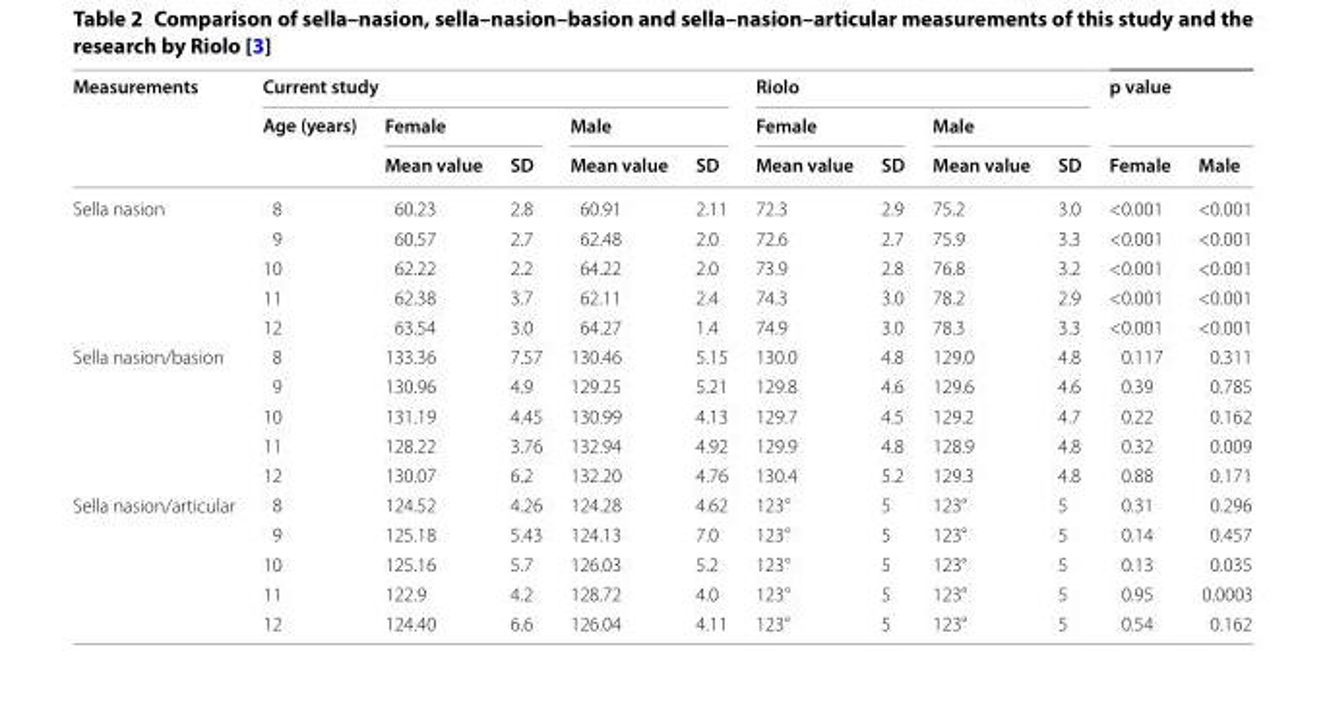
<table><thead><tr><td rowspan="3">Measurements</td><td colspan="5">Current study</td><td colspan="4">Riolo</td><td rowspan="2" colspan="2">p value</td></tr><tr><td rowspan="2">Age (years)</td><td colspan="2">Female</td><td colspan="2">Male</td><td colspan="2">Female</td><td colspan="2">Male</td></tr><tr><td>Mean value</td><td>SD</td><td>Mean value</td><td>SD</td><td>Mean value</td><td>SD</td><td>Mean value</td><td>SD</td><td>Female</td><td>Male</td></tr></thead><tbody><tr><td rowspan="5">Sella nasion</td><td>8</td><td>60.23</td><td>2.8</td><td>60.91</td><td>2.11</td><td>72.3</td><td>2.9</td><td>75.2</td><td>3.0</td><td>&lt;0.001</td><td>&lt;0.001</td></tr><tr><td>9</td><td>60.57</td><td>2.7</td><td>62.48</td><td>2.0</td><td>72.6</td><td>2.7</td><td>75.9</td><td>3.3</td><td>&lt;0.001</td><td>&lt;0.001</td></tr><tr><td>10</td><td>62.22</td><td>2.2</td><td>64.22</td><td>2.0</td><td>73.9</td><td>2.8</td><td>76.8</td><td>3.2</td><td>&lt;0.001</td><td>&lt;0.001</td></tr><tr><td>11</td><td>62.38</td><td>3.7</td><td>62.11</td><td>2.4</td><td>74.3</td><td>3.0</td><td>78.2</td><td>2.9</td><td>&lt;0.001</td><td>&lt;0.001</td></tr><tr><td>12</td><td>63.54</td><td>3.0</td><td>64.27</td><td>1.4</td><td>74.9</td><td>3.0</td><td>78.3</td><td>3.3</td><td>&lt;0.001</td><td>&lt;0.001</td></tr><tr><td rowspan="5">Sella nasion/basion</td><td>8</td><td>133.36</td><td>7.57</td><td>130.46</td><td>5.15</td><td>130.0</td><td>4.8</td><td>129.0</td><td>4.8</td><td>0.117</td><td>0.311</td></tr><tr><td>9</td><td>130.96</td><td>4.9</td><td>129.25</td><td>5.21</td><td>129.8</td><td>4.6</td><td>129.6</td><td>4.6</td><td>0.39</td><td>0.785</td></tr><tr><td>10</td><td>131.19</td><td>4.45</td><td>130.99</td><td>4.13</td><td>129.7</td><td>4.5</td><td>129.2</td><td>4.7</td><td>0.22</td><td>0.162</td></tr><tr><td>11</td><td>128.22</td><td>3.76</td><td>132.94</td><td>4.92</td><td>129.9</td><td>4.8</td><td>128.9</td><td>4.8</td><td>0.32</td><td>0.009</td></tr><tr><td>12</td><td>130.07</td><td>6.2</td><td>132.20</td><td>4.76</td><td>130.4</td><td>5.2</td><td>129.3</td><td>4.8</td><td>0.88</td><td>0.171</td></tr><tr><td rowspan="5">Sella nasion/articular</td><td>8</td><td>124.52</td><td>4.26</td><td>124.28</td><td>4.62</td><td>123°</td><td>5</td><td>123°</td><td>5</td><td>0.31</td><td>0.296</td></tr><tr><td>9</td><td>125.18</td><td>5.43</td><td>124.13</td><td>7.0</td><td>123°</td><td>5</td><td>123°</td><td>5</td><td>0.14</td><td>0.457</td></tr><tr><td>10</td><td>125.16</td><td>5.7</td><td>126.03</td><td>5.2</td><td>123°</td><td>5</td><td>123°</td><td>5</td><td>0.13</td><td>0.035</td></tr><tr><td>11</td><td>122.9</td><td>4.2</td><td>128.72</td><td>4.0</td><td>123°</td><td>5</td><td>123°</td><td>5</td><td>0.95</td><td>0.0003</td></tr><tr><td>12</td><td>124.40</td><td>6.6</td><td>126.04</td><td>4.11</td><td>123°</td><td>5</td><td>123°</td><td>5</td><td>0.54</td><td>0.162</td></tr></tbody></table>